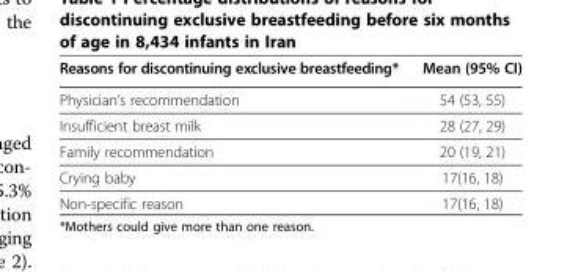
<table><thead><tr><td>Reasons for discontinuing exclusive breastfeeding*</td><td>Mean (95% CI)</td></tr></thead><tbody><tr><td>Physician’s recommendation</td><td>54 (53, 55)</td></tr><tr><td>Insufficient breast milk</td><td>28 (27, 29)</td></tr><tr><td>Family recommendation</td><td>20 (19, 21)</td></tr><tr><td>Crying baby</td><td>17(16, 18)</td></tr><tr><td>Non-specific reason</td><td>17(16, 18)</td></tr></tbody></table>